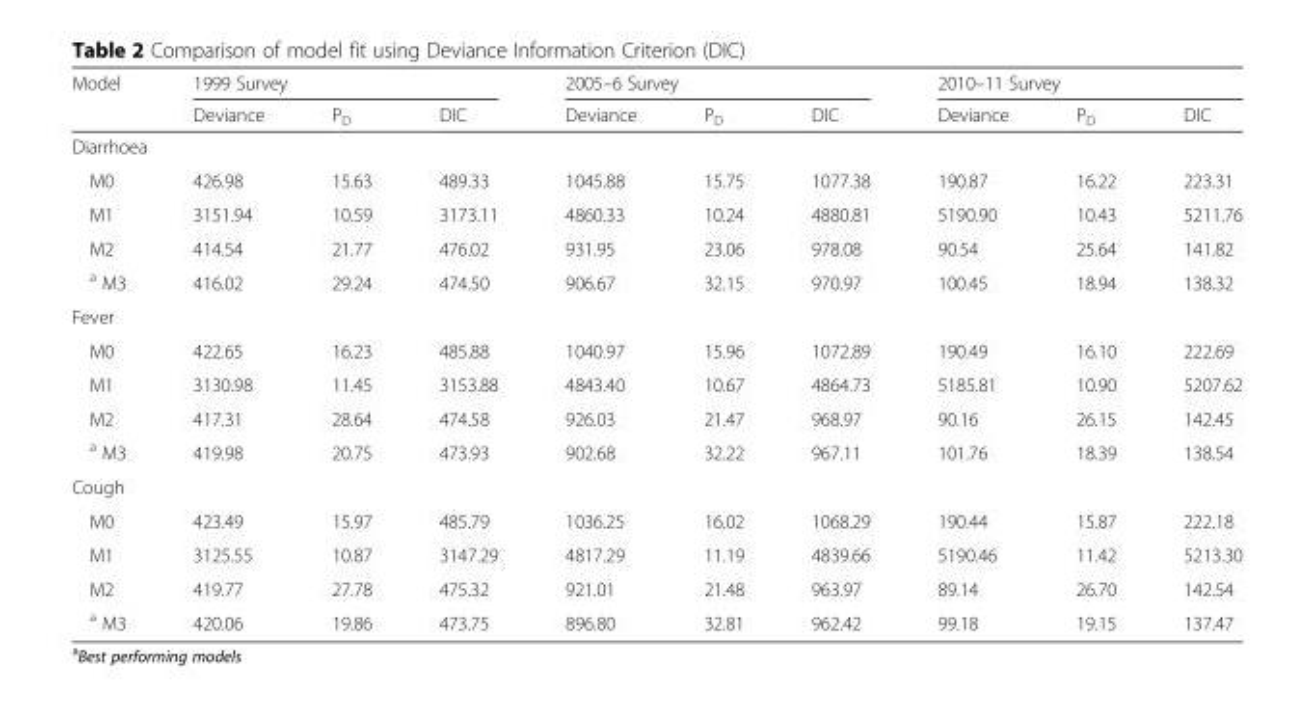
<table><thead><tr><td rowspan="2">Model</td><td colspan="3">1999 Survey</td><td colspan="3">2005–6 Survey</td><td colspan="3">2010–11 Survey</td></tr><tr><td>Deviance</td><td>P<sub>D</sub></td><td>DIC</td><td>Deviance</td><td>P<sub>D</sub></td><td>DIC</td><td>Deviance</td><td>P<sub>D</sub></td><td>DIC</td></tr></thead><tbody><tr><td colspan="10">Diarrhoea</td></tr><tr><td>M0</td><td>426.98</td><td>15.63</td><td>489.33</td><td>1045.88</td><td>15.75</td><td>1077.38</td><td>190.87</td><td>16.22</td><td>223.31</td></tr><tr><td>M1</td><td>3151.94</td><td>10.59</td><td>3173.11</td><td>4860.33</td><td>10.24</td><td>4880.81</td><td>5190.90</td><td>10.43</td><td>5211.76</td></tr><tr><td>M2</td><td>414.54</td><td>21.77</td><td>476.02</td><td>931.95</td><td>23.06</td><td>978.08</td><td>90.54</td><td>25.64</td><td>141.82</td></tr><tr><td><sup>a</sup> M3</td><td>416.02</td><td>29.24</td><td>474.50</td><td>906.67</td><td>32.15</td><td>970.97</td><td>100.45</td><td>18.94</td><td>138.32</td></tr><tr><td colspan="10">Fever</td></tr><tr><td>M0</td><td>422.65</td><td>16.23</td><td>485.88</td><td>1040.97</td><td>15.96</td><td>1072.89</td><td>190.49</td><td>16.10</td><td>222.69</td></tr><tr><td>M1</td><td>3130.98</td><td>11.45</td><td>3153.88</td><td>4843.40</td><td>10.67</td><td>4864.73</td><td>5185.81</td><td>10.90</td><td>5207.62</td></tr><tr><td>M2</td><td>417.31</td><td>28.64</td><td>474.58</td><td>926.03</td><td>21.47</td><td>968.97</td><td>90.16</td><td>26.15</td><td>142.45</td></tr><tr><td><sup>a</sup> M3</td><td>419.98</td><td>20.75</td><td>473.93</td><td>902.68</td><td>32.22</td><td>967.11</td><td>101.76</td><td>18.39</td><td>138.54</td></tr><tr><td colspan="10">Cough</td></tr><tr><td>M0</td><td>423.49</td><td>15.97</td><td>485.79</td><td>1036.25</td><td>16.02</td><td>1068.29</td><td>190.44</td><td>15.87</td><td>222.18</td></tr><tr><td>M1</td><td>3125.55</td><td>10.87</td><td>3147.29</td><td>4817.29</td><td>11.19</td><td>4839.66</td><td>5190.46</td><td>11.42</td><td>5213.30</td></tr><tr><td>M2</td><td>419.77</td><td>27.78</td><td>475.32</td><td>921.01</td><td>21.48</td><td>963.97</td><td>89.14</td><td>26.70</td><td>142.54</td></tr><tr><td><sup>a</sup> M3</td><td>420.06</td><td>19.86</td><td>473.75</td><td>896.80</td><td>32.81</td><td>962.42</td><td>99.18</td><td>19.15</td><td>137.47</td></tr></tbody></table>